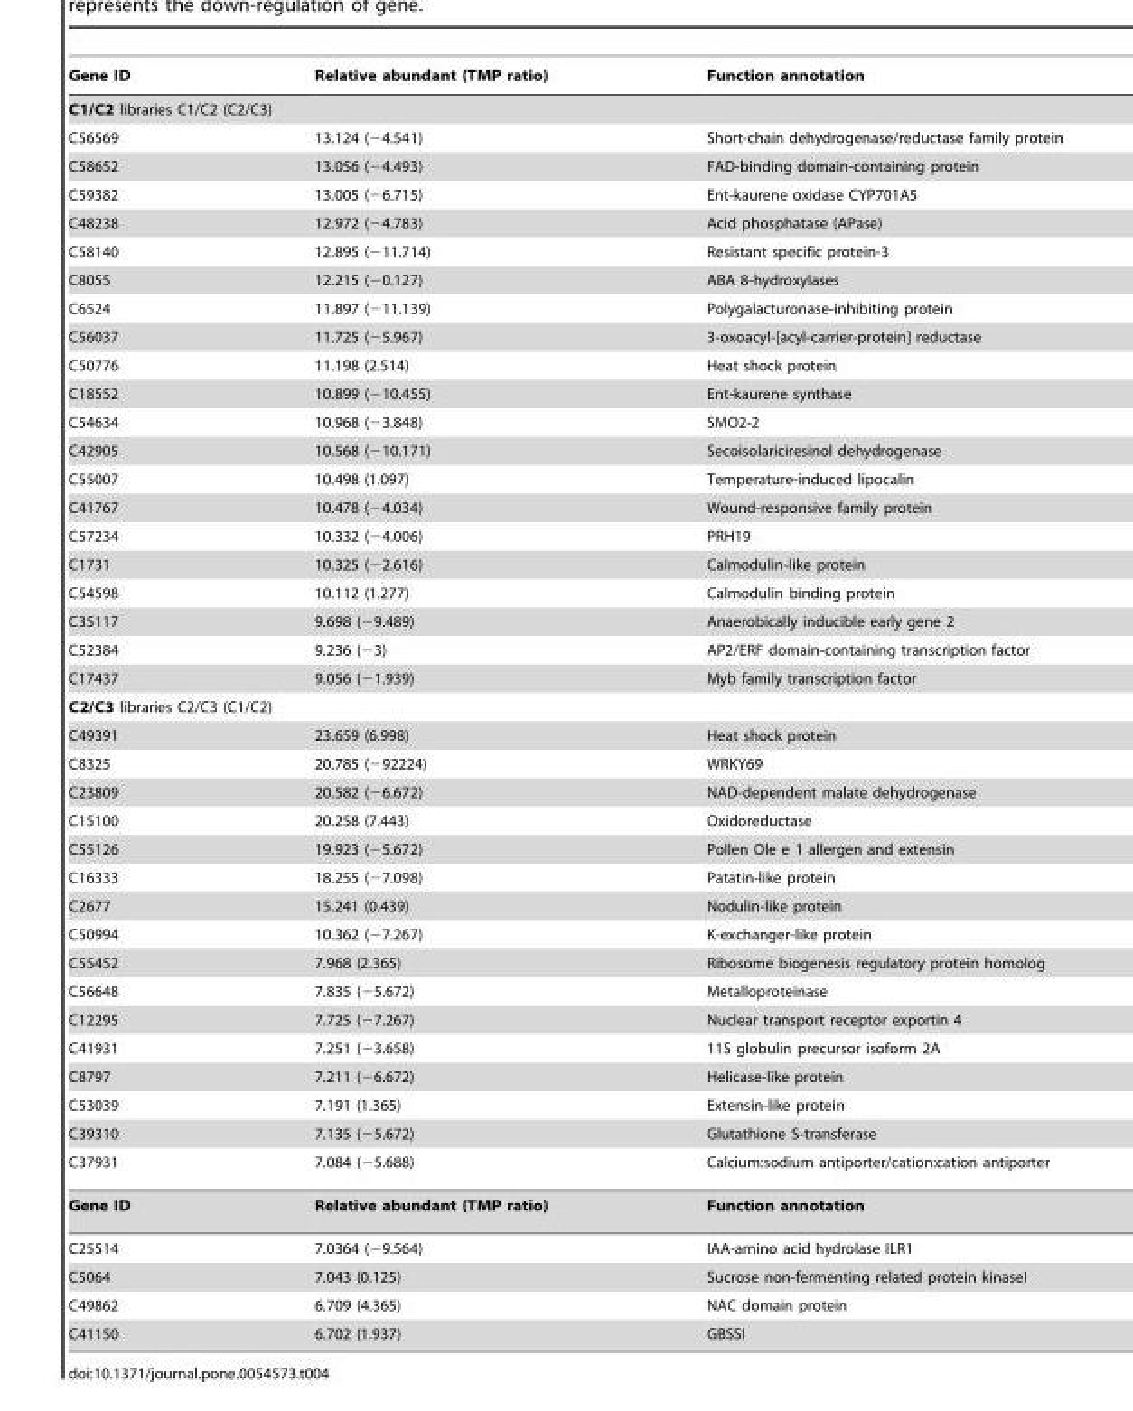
<table><thead><tr><td>Gene ID</td><td>Relative abundant (TMP ratio)</td><td>Function annotation</td></tr></thead><tbody><tr><td colspan="3">C1/C2 libraries C1/C2 (C2/C3)</td></tr><tr><td>C56569</td><td>13.124 (−4.541)</td><td>Short-chain dehydrogenase/reductase family protein</td></tr><tr><td>C58652</td><td>13.056 (−4.493)</td><td>FAD-binding domain-containing protein</td></tr><tr><td>C59382</td><td>13.005 (−6.715)</td><td>Ent-kaurene oxidase CYP701A5</td></tr><tr><td>C48238</td><td>12.972 (−4.783)</td><td>Acid phosphatase (APase)</td></tr><tr><td>C58140</td><td>12.895 (−11.714)</td><td>Resistant specific protein-3</td></tr><tr><td>C8055</td><td>12.215 (−0.127)</td><td>ABA 8-hydroxylases</td></tr><tr><td>C6524</td><td>11.897 (−11.139)</td><td>Polygalacturonase-inhibiting protein</td></tr><tr><td>C56037</td><td>11.725 (−5.967)</td><td>3-oxoacyl-[acyl-carrier-protein] reductase</td></tr><tr><td>C50776</td><td>11.198 (2.514)</td><td>Heat shock protein</td></tr><tr><td>C18552</td><td>10.899 (−10.455)</td><td>Ent-kaurene synthase</td></tr><tr><td>C54634</td><td>10.968 (−3.848)</td><td>SMO2-2</td></tr><tr><td>C42905</td><td>10.568 (−10.171)</td><td>Secoisolariciresinol dehydrogenase</td></tr><tr><td>C55007</td><td>10.498 (1.097)</td><td>Temperature-induced lipocalin</td></tr><tr><td>C41767</td><td>10.478 (−4.034)</td><td>Wound-responsive family protein</td></tr><tr><td>C57234</td><td>10.332 (−4.006)</td><td>PRH19</td></tr><tr><td>C1731</td><td>10.325 (−2.616)</td><td>Calmodulin-like protein</td></tr><tr><td>C54598</td><td>10.112 (1.277)</td><td>Calmodulin binding protein</td></tr><tr><td>C35117</td><td>9.698 (−9.489)</td><td>Anaerobically inducible early gene 2</td></tr><tr><td>C52384</td><td>9.236 (−3)</td><td>AP2/ERF domain-containing transcription factor</td></tr><tr><td>C17437</td><td>9.056 (−1.939)</td><td>Myb family transcription factor</td></tr><tr><td colspan="3">C2/C3 libraries C2/C3 (C1/C2)</td></tr><tr><td>C49391</td><td>23.659 (6.998)</td><td>Heat shock protein</td></tr><tr><td>C8325</td><td>20.785 (−92224)</td><td>WRKY69</td></tr><tr><td>C23809</td><td>20.582 (−6.672)</td><td>NAD-dependent malate dehydrogenase</td></tr><tr><td>C15100</td><td>20.258 (7.443)</td><td>Oxidoreductase</td></tr><tr><td>C55126</td><td>19.923 (−5.672)</td><td>Pollen Ole e 1 allergen and extensin</td></tr><tr><td>C16333</td><td>18.255 (−7.098)</td><td>Patatin-like protein</td></tr><tr><td>C2677</td><td>15.241 (0.439)</td><td>Nodulin-like protein</td></tr><tr><td>C50994</td><td>10.362 (−7.267)</td><td>K-exchanger-like protein</td></tr><tr><td>C55452</td><td>7.968 (2.365)</td><td>Ribosome biogenesis regulatory protein homolog</td></tr><tr><td>C56648</td><td>7.835 (−5.672)</td><td>Metalloproteinase</td></tr><tr><td>C12295</td><td>7.725 (−7.267)</td><td>Nuclear transport receptor exportin 4</td></tr><tr><td>C41931</td><td>7.251 (−3.658)</td><td>11S globulin precursor isoform 2A</td></tr><tr><td>C8797</td><td>7.211 (−6.672)</td><td>Helicase-like protein</td></tr><tr><td>C53039</td><td>7.191 (1.365)</td><td>Extensin-like protein</td></tr><tr><td>C39310</td><td>7.135 (−5.672)</td><td>Glutathione S-transferase</td></tr><tr><td>C37931</td><td>7.084 (−5.688)</td><td>Calcium:sodium antiporter/cation:cation antiporter</td></tr><tr><td>Gene ID</td><td>Relative abundant (TMP ratio)</td><td>Function annotation</td></tr><tr><td>C25514</td><td>7.0364 (−9.564)</td><td>IAA-amino acid hydrolase ILR1</td></tr><tr><td>C5064</td><td>7.043 (0.125)</td><td>Sucrose non-fermenting related protein kinaseI</td></tr><tr><td>C49862</td><td>6.709 (4.365)</td><td>NAC domain protein</td></tr><tr><td>C41150</td><td>6.702 (1.937)</td><td>GBSSI</td></tr></tbody></table>